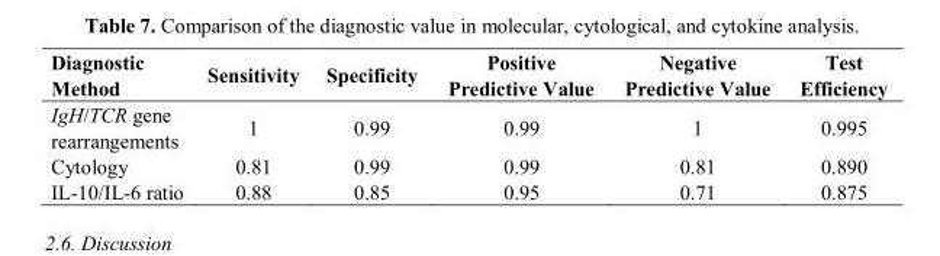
<table><thead><tr><td>Diagnostic Method</td><td>Sensitivity</td><td>Specificity</td><td>Positive Predictive Value</td><td>Negative Predictive Value</td><td>Test Efficiency</td></tr></thead><tbody><tr><td>IgH/TCR gene rearrangements</td><td>1</td><td>0.99</td><td>0.99</td><td>1</td><td>0.995</td></tr><tr><td>Cytology</td><td>0.81</td><td>0.99</td><td>0.99</td><td>0.81</td><td>0.890</td></tr><tr><td>IL-10/IL-6 ratio</td><td>0.88</td><td>0.85</td><td>0.95</td><td>0.71</td><td>0.875</td></tr></tbody></table>